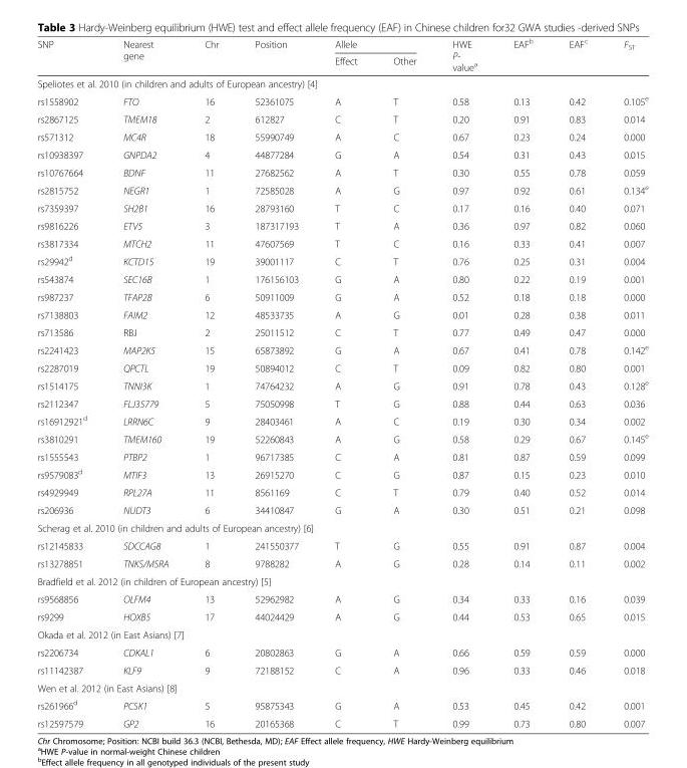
<table><thead><tr><td rowspan="2">SNP</td><td rowspan="2">Nearest gene</td><td rowspan="2">Chr</td><td rowspan="2">Position</td><td colspan="2">Allele</td><td rowspan="2">HWE P- value<sup>a</sup></td><td rowspan="2">EAF<sup>b</sup></td><td rowspan="2">EAF<sup>c</sup></td><td rowspan="2">F<sub>ST</sub></td></tr><tr><td>Effect</td><td>Other</td></tr></thead><tbody><tr><td colspan="10">Speliotes et al. 2010 (in children and adults of European ancestry) [4]</td></tr><tr><td>rs1558902</td><td>FTO</td><td>16</td><td>52361075</td><td>A</td><td>T</td><td>0.58</td><td>0.13</td><td>0.42</td><td>0.105<sup>e</sup></td></tr><tr><td>rs2867125</td><td>TMEM18</td><td>2</td><td>612827</td><td>C</td><td>T</td><td>0.20</td><td>0.91</td><td>0.83</td><td>0.014</td></tr><tr><td>rs571312</td><td>MC4R</td><td>18</td><td>55990749</td><td>A</td><td>C</td><td>0.67</td><td>0.23</td><td>0.24</td><td>0.000</td></tr><tr><td>rs10938397</td><td>GNPDA2</td><td>4</td><td>44877284</td><td>G</td><td>A</td><td>0.54</td><td>0.31</td><td>0.43</td><td>0.015</td></tr><tr><td>rs10767664</td><td>BDNF</td><td>11</td><td>27682562</td><td>A</td><td>T</td><td>0.30</td><td>0.55</td><td>0.78</td><td>0.059</td></tr><tr><td>rs2815752</td><td>NEGR1</td><td>1</td><td>72585028</td><td>A</td><td>G</td><td>0.97</td><td>0.92</td><td>0.61</td><td>0.134<sup>e</sup></td></tr><tr><td>rs7359397</td><td>SH2B1</td><td>16</td><td>28793160</td><td>T</td><td>C</td><td>0.17</td><td>0.16</td><td>0.40</td><td>0.071</td></tr><tr><td>rs9816226</td><td>ETV5</td><td>3</td><td>187317193</td><td>T</td><td>A</td><td>0.36</td><td>0.97</td><td>0.82</td><td>0.060</td></tr><tr><td>rs3817334</td><td>MTCH2</td><td>11</td><td>47607569</td><td>T</td><td>C</td><td>0.16</td><td>0.33</td><td>0.41</td><td>0.007</td></tr><tr><td>rs29942<sup>d</sup></td><td>KCTD15</td><td>19</td><td>39001117</td><td>C</td><td>T</td><td>0.76</td><td>0.25</td><td>0.31</td><td>0.004</td></tr><tr><td>rs543874</td><td>SEC16B</td><td>1</td><td>176156103</td><td>G</td><td>A</td><td>0.80</td><td>0.22</td><td>0.19</td><td>0.001</td></tr><tr><td>rs987237</td><td>TFAP2B</td><td>6</td><td>50911009</td><td>G</td><td>A</td><td>0.52</td><td>0.18</td><td>0.18</td><td>0.000</td></tr><tr><td>rs7138803</td><td>FAIM2</td><td>12</td><td>48533735</td><td>A</td><td>G</td><td>0.01</td><td>0.28</td><td>0.38</td><td>0.011</td></tr><tr><td>rs713586</td><td>RBJ</td><td>2</td><td>25011512</td><td>C</td><td>T</td><td>0.77</td><td>0.49</td><td>0.47</td><td>0.000</td></tr><tr><td>rs2241423</td><td>MAP2K5</td><td>15</td><td>65873892</td><td>G</td><td>A</td><td>0.67</td><td>0.41</td><td>0.78</td><td>0.142<sup>e</sup></td></tr><tr><td>rs2287019</td><td>QPCTL</td><td>19</td><td>50894012</td><td>C</td><td>T</td><td>0.09</td><td>0.82</td><td>0.80</td><td>0.001</td></tr><tr><td>rs1514175</td><td>TNNI3K</td><td>1</td><td>74764232</td><td>A</td><td>G</td><td>0.91</td><td>0.78</td><td>0.43</td><td>0.128<sup>e</sup></td></tr><tr><td>rs2112347</td><td>FLJ35779</td><td>5</td><td>75050998</td><td>T</td><td>G</td><td>0.88</td><td>0.44</td><td>0.63</td><td>0.036</td></tr><tr><td>rs16912921<sup>d</sup></td><td>LRRN6C</td><td>9</td><td>28403461</td><td>A</td><td>C</td><td>0.19</td><td>0.30</td><td>0.34</td><td>0.002</td></tr><tr><td>rs3810291</td><td>TMEM160</td><td>19</td><td>52260843</td><td>A</td><td>G</td><td>0.58</td><td>0.29</td><td>0.67</td><td>0.145<sup>e</sup></td></tr><tr><td>rs1555543</td><td>PTBP2</td><td>1</td><td>96717385</td><td>C</td><td>A</td><td>0.81</td><td>0.87</td><td>0.59</td><td>0.099</td></tr><tr><td>rs9579083<sup>d</sup></td><td>MTIF3</td><td>13</td><td>26915270</td><td>C</td><td>G</td><td>0.87</td><td>0.15</td><td>0.23</td><td>0.010</td></tr><tr><td>rs4929949</td><td>RPL27A</td><td>11</td><td>8561169</td><td>C</td><td>T</td><td>0.79</td><td>0.40</td><td>0.52</td><td>0.014</td></tr><tr><td>rs206936</td><td>NUDT3</td><td>6</td><td>34410847</td><td>G</td><td>A</td><td>0.30</td><td>0.51</td><td>0.21</td><td>0.098</td></tr><tr><td colspan="10">Scherag et al. 2010 (in children and adults of European ancestry) [6]</td></tr><tr><td>rs12145833</td><td>SDCCAG8</td><td>1</td><td>241550377</td><td>T</td><td>G</td><td>0.55</td><td>0.91</td><td>0.87</td><td>0.004</td></tr><tr><td>rs13278851</td><td>TNKS/MSRA</td><td>8</td><td>9788282</td><td>A</td><td>G</td><td>0.28</td><td>0.14</td><td>0.11</td><td>0.002</td></tr><tr><td colspan="10">Bradfield et al. 2012 (in children of European ancestry) [5]</td></tr><tr><td>rs9568856</td><td>OLFM4</td><td>13</td><td>52962982</td><td>A</td><td>G</td><td>0.34</td><td>0.33</td><td>0.16</td><td>0.039</td></tr><tr><td>rs9299</td><td>HOXB5</td><td>17</td><td>44024429</td><td>A</td><td>G</td><td>0.44</td><td>0.53</td><td>0.65</td><td>0.015</td></tr><tr><td colspan="10">Okada et al. 2012 (in East Asians) [7]</td></tr><tr><td>rs2206734</td><td>CDKAL1</td><td>6</td><td>20802863</td><td>G</td><td>A</td><td>0.66</td><td>0.59</td><td>0.59</td><td>0.000</td></tr><tr><td>rs11142387</td><td>KLF9</td><td>9</td><td>72188152</td><td>C</td><td>A</td><td>0.96</td><td>0.33</td><td>0.46</td><td>0.018</td></tr><tr><td colspan="10">Wen et al. 2012 (in East Asians) [8]</td></tr><tr><td>rs261966<sup>d</sup></td><td>PCSK1</td><td>5</td><td>95875343</td><td>G</td><td>A</td><td>0.53</td><td>0.45</td><td>0.42</td><td>0.001</td></tr><tr><td>rs12597579</td><td>GP2</td><td>16</td><td>20165368</td><td>C</td><td>T</td><td>0.99</td><td>0.73</td><td>0.80</td><td>0.007</td></tr></tbody></table>